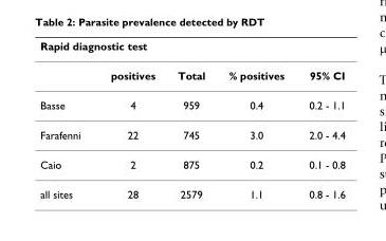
<table><thead><tr><td colspan="5">Rapid diagnostic test</td></tr><tr><td></td><td>positives</td><td>Total</td><td>% positives</td><td>95% CI</td></tr></thead><tbody><tr><td>Basse</td><td>4</td><td>959</td><td>0.4</td><td>0.2 - 1.1</td></tr><tr><td>Farafenni</td><td>22</td><td>745</td><td>3.0</td><td>2.0 - 4.4</td></tr><tr><td>Caio</td><td>2</td><td>875</td><td>0.2</td><td>0.1 - 0.8</td></tr><tr><td>all sites</td><td>28</td><td>2579</td><td>1.1</td><td>0.8 - 1.6</td></tr></tbody></table>